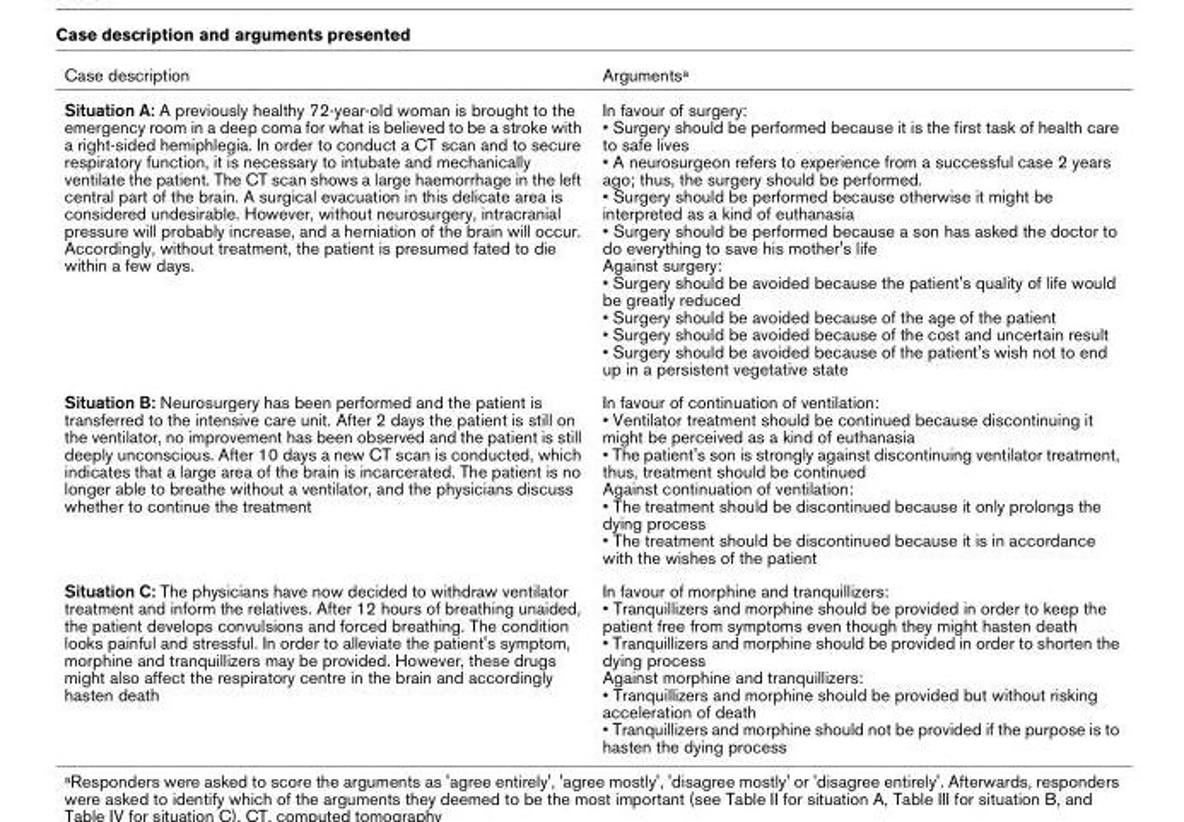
<table><thead><tr><td>Case description</td><td>Arguments<sup>a</sup></td></tr></thead><tbody><tr><td>Situation A: A previously healthy 72-year-old woman is brought to the emergency room in a deep coma for what is believed to be a stroke with a right-sided hemiphlegia. In order to conduct a CT scan and to secure respiratory function, it is necessary to intubate and mechanically ventilate the patient. The CT scan shows a large haemorrhage in the left central part of the brain. A surgical evacuation in this delicate area is considered undesirable. However, without neurosurgery, intracranial pressure will probably increase, and a herniation of the brain will occur. Accordingly, without treatment, the patient is presumed fated to die within a few days.</td><td>In favour of surgery: • Surgery should be performed because it is the first task of health care to safe lives • A neurosurgeon refers to experience from a successful case 2 years ago; thus, the surgery should be performed. • Surgery should be performed because otherwise it might be interpreted as a kind of euthanasia • Surgery should be performed because a son has asked the doctor to do everything to save his mother&#x27;s life Against surgery: • Surgery should be avoided because the patient&#x27;s quality of life would be greatly reduced • Surgery should be avoided because of the age of the patient • Surgery should be avoided because of the cost and uncertain result • Surgery should be avoided because of the patient&#x27;s wish not to end up in a persistent vegetative state</td></tr><tr><td>Situation B: Neurosurgery has been performed and the patient is transferred to the intensive care unit. After 2 days the patient is still on the ventilator, no improvement has been observed and the patient is still deeply unconscious. After 10 days a new CT scan is conducted, which indicates that a large area of the brain is incarcerated. The patient is no longer able to breathe without a ventilator, and the physicians discuss whether to continue the treatment</td><td>In favour of continuation of ventilation: • Ventilator treatment should be continued because discontinuing it might be perceived as a kind of euthanasia • The patient&#x27;s son is strongly against discontinuing ventilator treatment, thus, treatment should be continued Against continuation of ventilation: • The treatment should be discontinued because it only prolongs the dying process • The treatment should be discontinued because it is in accordance with the wishes of the patient</td></tr><tr><td>Situation C: The physicians have now decided to withdraw ventilator treatment and inform the relatives. After 12 hours of breathing unaided, the patient develops convulsions and forced breathing. The condition looks painful and stressful. In order to alleviate the patient&#x27;s symptom, morphine and tranquillizers may be provided. However, these drugs might also affect the respiratory centre in the brain and accordingly hasten death</td><td>In favour of morphine and tranquillizers: • Tranquillizers and morphine should be provided in order to keep the patient free from symptoms even though they might hasten death • Tranquillizers and morphine should be provided in order to shorten the dying process Against morphine and tranquillizers: • Tranquillizers and morphine should be provided but without risking acceleration of death • Tranquillizers and morphine should not be provided if the purpose is to hasten the dying process</td></tr></tbody></table>